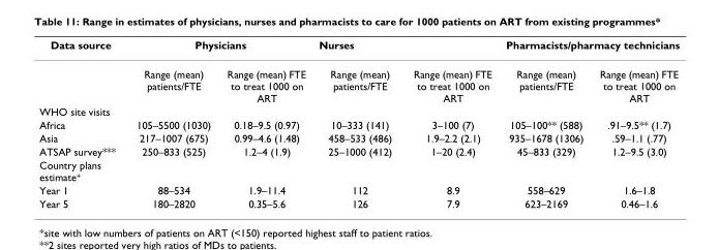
<table><thead><tr><td rowspan="2">Data source</td><td colspan="2">Physicians</td><td colspan="2">Nurses</td><td colspan="2">Pharmacists/pharmacy technicians</td></tr><tr><td>Range (mean) patients/FTE</td><td>Range (mean) FTE to treat 1000 on ART</td><td>Range (mean) patients/FTE</td><td>Range (mean) FTE to treat 1000 on ART</td><td>Range (mean) patients/FTE</td><td>Range (mean) FTE to treat 1000 on ART</td></tr></thead><tbody><tr><td colspan="7">WHO site visits</td></tr><tr><td>Africa</td><td>105–5500 (1030)</td><td>0.18–9.5 (0.97)</td><td>10–333 (141)</td><td>3–100 (7)</td><td>105–100** (588)</td><td>.91–9.5** (1.7)</td></tr><tr><td>Asia</td><td>217–1007 (675)</td><td>0.99–4.6 (1.48)</td><td>458–533 (486)</td><td>1.9–2.2 (2.1)</td><td>935–1678 (1306)</td><td>.59–1.1 (.77)</td></tr><tr><td>ATSAP survey***</td><td>250–833 (525)</td><td>1.2–4 (1.9)</td><td>25–1000 (412)</td><td>1–20 (2.4)</td><td>45–833 (329)</td><td>1.2–9.5 (3.0)</td></tr><tr><td colspan="7">Country plans estimate<sup>+</sup></td></tr><tr><td>Year 1</td><td>88–534</td><td>1.9–11.4</td><td>112</td><td>8.9</td><td>558–629</td><td>1.6–1.8</td></tr><tr><td>Year 5</td><td>180–2820</td><td>0.35–5.6</td><td>126</td><td>7.9</td><td>623–2169</td><td>0.46–1.6</td></tr></tbody></table>